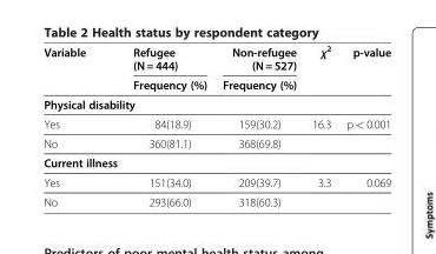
<table><thead><tr><td rowspan="2">Variable</td><td rowspan="2">Refugee (N = 444) Frequency (%)</td><td rowspan="2">Non-refugee (N = 527) Frequency (%)</td><td rowspan="2">χ<sup>2</sup></td><td rowspan="2">p-value</td></tr><tr></tr></thead><tbody><tr><td colspan="5">Physical disability</td></tr><tr><td>Yes</td><td>84(18.9)</td><td>159(30.2)</td><td>16.3</td><td>p &lt; 0.001</td></tr><tr><td>No</td><td>360(81.1)</td><td>368(69.8)</td><td></td><td></td></tr><tr><td colspan="5">Current illness</td></tr><tr><td>Yes</td><td>151(34.0)</td><td>209(39.7)</td><td>3.3</td><td>0.069</td></tr><tr><td>No</td><td>293(66.0)</td><td>318(60.3)</td><td></td><td></td></tr></tbody></table>